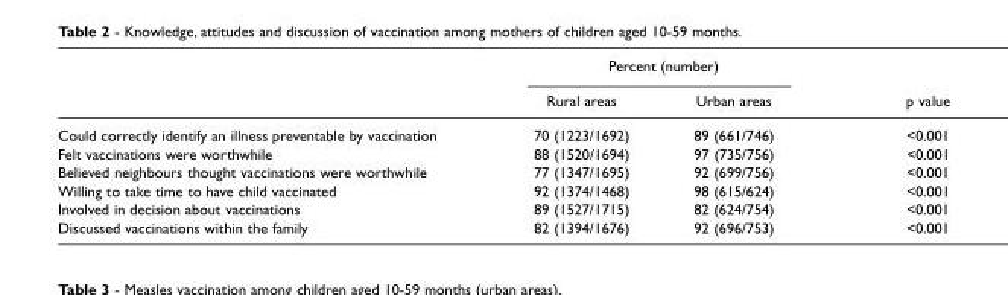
<table><thead><tr><td rowspan="2"></td><td colspan="2">Percent (number)</td><td rowspan="2">p value</td></tr><tr><td>Rural areas</td><td>Urban areas</td></tr></thead><tbody><tr><td>Could correctly identify an illness preventable by vaccination</td><td>70 (1223/1692)</td><td>89 (661/746)</td><td>&lt;0.001</td></tr><tr><td>Felt vaccinations were worthwhile</td><td>88 (1520/1694)</td><td>97 (735/756)</td><td>&lt;0.001</td></tr><tr><td>Believed neighbours thought vaccinations were worthwhile</td><td>77 (1347/1695)</td><td>92 (699/756)</td><td>&lt;0.001</td></tr><tr><td>Willing to take time to have child vaccinated</td><td>92 (1374/1468)</td><td>98 (615/624)</td><td>&lt;0.001</td></tr><tr><td>Involved in decision about vaccinations</td><td>89 (1527/1715)</td><td>82 (624/754)</td><td>&lt;0.001</td></tr><tr><td>Discussed vaccinations within the family</td><td>82 (1394/1676)</td><td>92 (696/753)</td><td>&lt;0.001</td></tr></tbody></table>